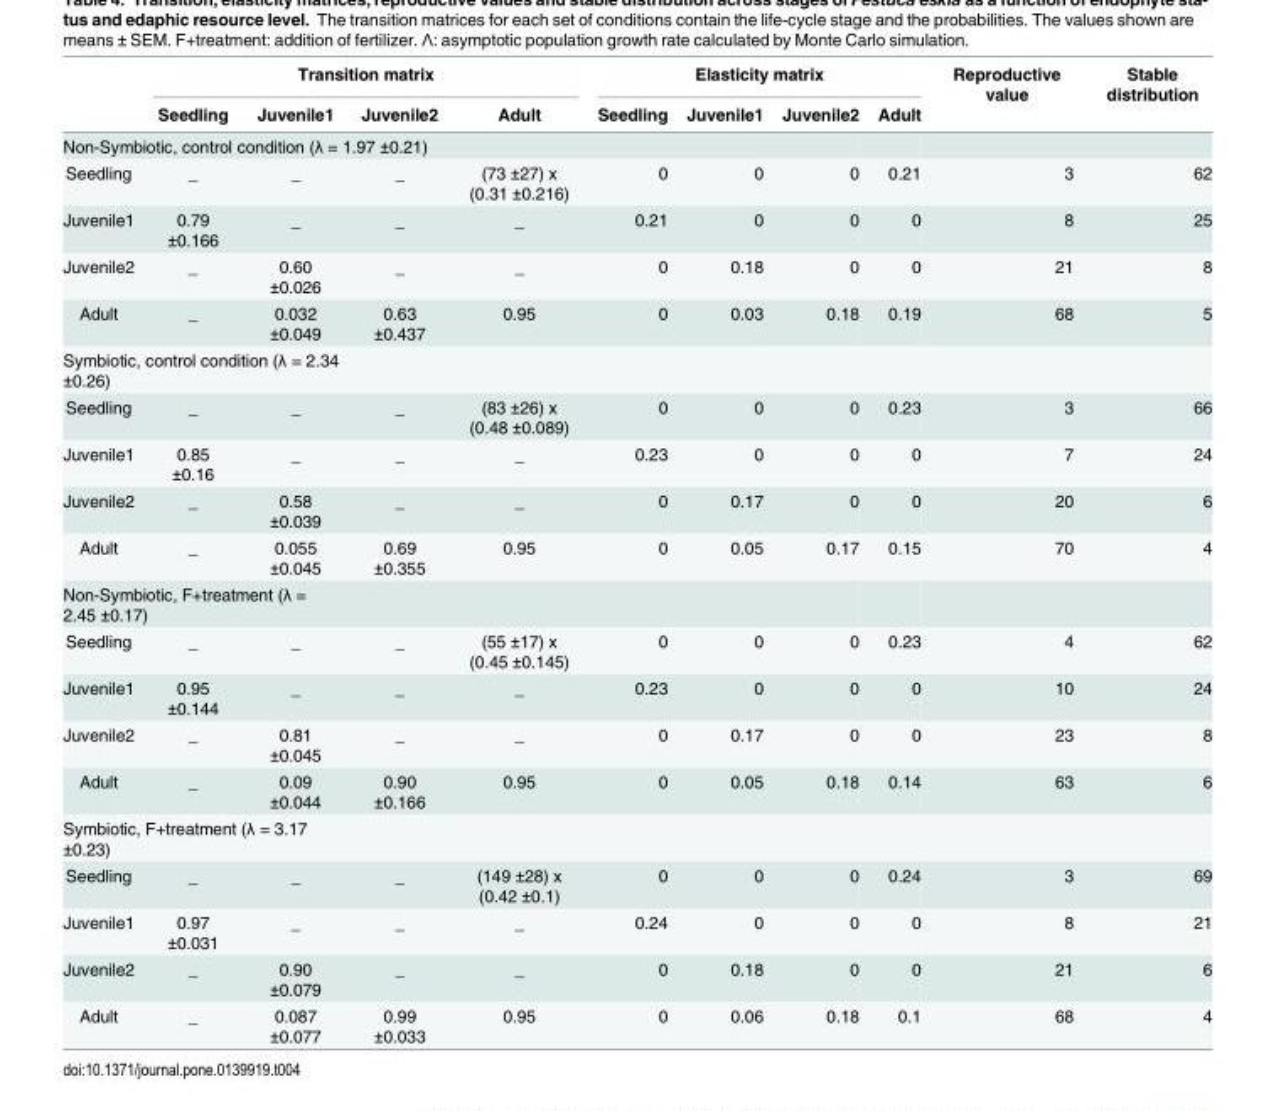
<table><thead><tr><td rowspan="2"></td><td colspan="4">Transition matrix</td><td colspan="4">Elasticity matrix</td><td rowspan="2">Reproductive value</td><td rowspan="2">Stable distribution</td></tr><tr><td>Seedling</td><td>Juvenile1</td><td>Juvenile2</td><td>Adult</td><td>Seedling</td><td>Juvenile1</td><td>Juvenile2</td><td>Adult</td></tr></thead><tbody><tr><td colspan="11">Non-Symbiotic, control condition (λ = 1.97 ±0.21)</td></tr><tr><td>Seedling</td><td>_</td><td>_</td><td>_</td><td>(73 ±27) x (0.31 ±0.216)</td><td>0</td><td>0</td><td>0</td><td>0.21</td><td>3</td><td>62</td></tr><tr><td>Juvenile1</td><td>0.79 ±0.166</td><td>_</td><td>_</td><td>_</td><td>0.21</td><td>0</td><td>0</td><td>0</td><td>8</td><td>25</td></tr><tr><td>Juvenile2</td><td>_</td><td>0.60 ±0.026</td><td>_</td><td>_</td><td>0</td><td>0.18</td><td>0</td><td>0</td><td>21</td><td>8</td></tr><tr><td>Adult</td><td>_</td><td>0.032 ±0.049</td><td>0.63 ±0.437</td><td>0.95</td><td>0</td><td>0.03</td><td>0.18</td><td>0.19</td><td>68</td><td>5</td></tr><tr><td colspan="11">Symbiotic, control condition (λ = 2.34 ±0.26)</td></tr><tr><td>Seedling</td><td>_</td><td>_</td><td>_</td><td>(83 ±26) x (0.48 ±0.089)</td><td>0</td><td>0</td><td>0</td><td>0.23</td><td>3</td><td>66</td></tr><tr><td>Juvenile1</td><td>0.85 ±0.16</td><td>_</td><td>_</td><td>_</td><td>0.23</td><td>0</td><td>0</td><td>0</td><td>7</td><td>24</td></tr><tr><td>Juvenile2</td><td>_</td><td>0.58 ±0.039</td><td>_</td><td>_</td><td>0</td><td>0.17</td><td>0</td><td>0</td><td>20</td><td>6</td></tr><tr><td>Adult</td><td>_</td><td>0.055 ±0.045</td><td>0.69 ±0.355</td><td>0.95</td><td>0</td><td>0.05</td><td>0.17</td><td>0.15</td><td>70</td><td>4</td></tr><tr><td colspan="11">Non-Symbiotic, F+treatment (λ = 2.45 ±0.17)</td></tr><tr><td>Seedling</td><td>_</td><td>_</td><td>_</td><td>(55 ±17) x (0.45 ±0.145)</td><td>0</td><td>0</td><td>0</td><td>0.23</td><td>4</td><td>62</td></tr><tr><td>Juvenile1</td><td>0.95 ±0.144</td><td>_</td><td>_</td><td>_</td><td>0.23</td><td>0</td><td>0</td><td>0</td><td>10</td><td>24</td></tr><tr><td>Juvenile2</td><td>_</td><td>0.81 ±0.045</td><td>_</td><td>_</td><td>0</td><td>0.17</td><td>0</td><td>0</td><td>23</td><td>8</td></tr><tr><td>Adult</td><td>_</td><td>0.09 ±0.044</td><td>0.90 ±0.166</td><td>0.95</td><td>0</td><td>0.05</td><td>0.18</td><td>0.14</td><td>63</td><td>6</td></tr><tr><td colspan="11">Symbiotic, F+treatment (λ = 3.17 ±0.23)</td></tr><tr><td>Seedling</td><td>_</td><td>_</td><td>_</td><td>(149 ±28) x (0.42 ±0.1)</td><td>0</td><td>0</td><td>0</td><td>0.24</td><td>3</td><td>69</td></tr><tr><td>Juvenile1</td><td>0.97 ±0.031</td><td>_</td><td>_</td><td>_</td><td>0.24</td><td>0</td><td>0</td><td>0</td><td>8</td><td>21</td></tr><tr><td>Juvenile2</td><td>_</td><td>0.90 ±0.079</td><td>_</td><td>_</td><td>0</td><td>0.18</td><td>0</td><td>0</td><td>21</td><td>6</td></tr><tr><td>Adult</td><td>_</td><td>0.087 ±0.077</td><td>0.99 ±0.033</td><td>0.95</td><td>0</td><td>0.06</td><td>0.18</td><td>0.1</td><td>68</td><td>4</td></tr></tbody></table>